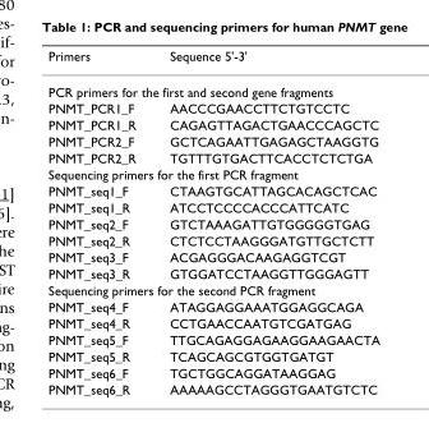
<table><thead><tr><td>Primers</td><td>Sequence 5&#x27;-3&#x27;</td></tr></thead><tbody><tr><td colspan="2">PCR primers for the first and second gene fragments</td></tr><tr><td>PNMT_PCR1_F</td><td>AACCCGAACCTTCTGTCCTC</td></tr><tr><td>PNMT_PCR1_R</td><td>CAGAGTTAGACTGAACCCAGCTC</td></tr><tr><td>PNMT_PCR2_F</td><td>GCTCAGAATTGAGAGCTAAGGTG</td></tr><tr><td>PNMT_PCR2_R</td><td>TGTTTGTGACTTCACCTCTCTGA</td></tr><tr><td colspan="2">Sequencing primers for the first PCR fragment</td></tr><tr><td>PNMT_seq1_F</td><td>CTAAGTGCATTAGCACAGCTCAC</td></tr><tr><td>PNMT_seq1_R</td><td>ATCCTCCCCACCCATTCATC</td></tr><tr><td>PNMT_seq2_F</td><td>GTCTAAAGATTGTGGGGGTGAG</td></tr><tr><td>PNMT_seq2_R</td><td>CTCTCCTAAGGGATGTTGCTCTT</td></tr><tr><td>PNMT_seq3_F</td><td>ACGAGGGACAAGAGGTCGT</td></tr><tr><td>PNMT_seq3_R</td><td>GTGGATCCTAAGGTTGGGAGTT</td></tr><tr><td colspan="2">Sequencing primers for the second PCR fragment</td></tr><tr><td>PNMT_seq4_F</td><td>ATAGGAGGAAATGGAGGCAGA</td></tr><tr><td>PNMT_seq4_R</td><td>CCTGAACCAATGTCGATGAG</td></tr><tr><td>PNMT_seq5_F</td><td>TTGCAGAGGAGAAGGAAGAACTA</td></tr><tr><td>PNMT_seq5_R</td><td>TCAGCAGCGTGGTGATGT</td></tr><tr><td>PNMT_seq6_F</td><td>TGCTGGCAGGATAAGGAG</td></tr><tr><td>PNMT_seq6_R</td><td>AAAAAGCCTAGGGTGAATGTCTC</td></tr></tbody></table>